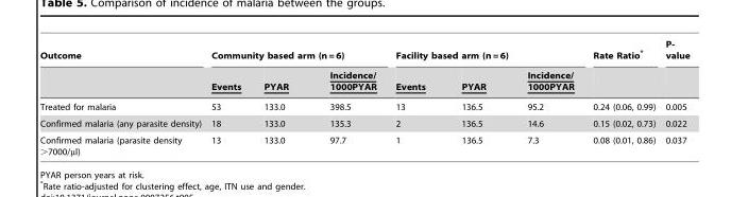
<table><thead><tr><td rowspan="2">Outcome</td><td colspan="3">Community based arm (n = 6)</td><td colspan="3">Facility based arm (n = 6)</td><td rowspan="2">Rate Ratio*</td><td rowspan="2">P- value</td></tr><tr><td>Events</td><td>PYAR</td><td>Incidence/ 1000PYAR</td><td>Events</td><td>PYAR</td><td>Incidence/ 1000PYAR</td></tr></thead><tbody><tr><td>Treated for malaria</td><td>53</td><td>133.0</td><td>398.5</td><td>13</td><td>136.5</td><td>95.2</td><td>0.24 (0.06, 0.99)</td><td>0.005</td></tr><tr><td>Confirmed malaria (any parasite density)</td><td>18</td><td>133.0</td><td>135.3</td><td>2</td><td>136.5</td><td>14.6</td><td>0.15 (0.02, 0.73)</td><td>0.022</td></tr><tr><td>Confirmed malaria (parasite density &gt;7000/µl)</td><td>13</td><td>133.0</td><td>97.7</td><td>1</td><td>136.5</td><td>7.3</td><td>0.08 (0.01, 0.86)</td><td>0.037</td></tr></tbody></table>